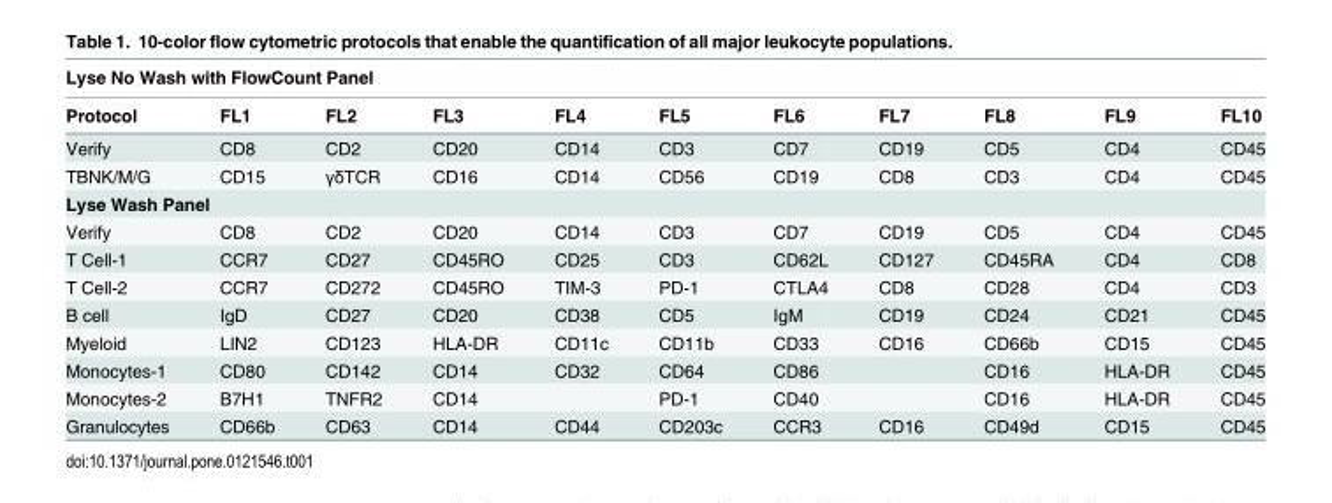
<table><thead><tr><td colspan="11">Lyse No Wash with FlowCount Panel</td></tr><tr><td>Protocol</td><td>FL1</td><td>FL2</td><td>FL3</td><td>FL4</td><td>FL5</td><td>FL6</td><td>FL7</td><td>FL8</td><td>FL9</td><td>FL10</td></tr></thead><tbody><tr><td>Verify</td><td>CD8</td><td>CD2</td><td>CD20</td><td>CD14</td><td>CD3</td><td>CD7</td><td>CD19</td><td>CD5</td><td>CD4</td><td>CD45</td></tr><tr><td>TBNK/M/G</td><td>CD15</td><td>γδTCR</td><td>CD16</td><td>CD14</td><td>CD56</td><td>CD19</td><td>CD8</td><td>CD3</td><td>CD4</td><td>CD45</td></tr><tr><td colspan="11">Lyse Wash Panel</td></tr><tr><td>Verify</td><td>CD8</td><td>CD2</td><td>CD20</td><td>CD14</td><td>CD3</td><td>CD7</td><td>CD19</td><td>CD5</td><td>CD4</td><td>CD45</td></tr><tr><td>T Cell-1</td><td>CCR7</td><td>CD27</td><td>CD45RO</td><td>CD25</td><td>CD3</td><td>CD62L</td><td>CD127</td><td>CD45RA</td><td>CD4</td><td>CD8</td></tr><tr><td>T Cell-2</td><td>CCR7</td><td>CD272</td><td>CD45RO</td><td>TIM-3</td><td>PD-1</td><td>CTLA4</td><td>CD8</td><td>CD28</td><td>CD4</td><td>CD3</td></tr><tr><td>B cell</td><td>IgD</td><td>CD27</td><td>CD20</td><td>CD38</td><td>CD5</td><td>IgM</td><td>CD19</td><td>CD24</td><td>CD21</td><td>CD45</td></tr><tr><td>Myeloid</td><td>LIN2</td><td>CD123</td><td>HLA-DR</td><td>CD11c</td><td>CD11b</td><td>CD33</td><td>CD16</td><td>CD66b</td><td>CD15</td><td>CD45</td></tr><tr><td>Monocytes-1</td><td>CD80</td><td>CD142</td><td>CD14</td><td>CD32</td><td>CD64</td><td>CD86</td><td></td><td>CD16</td><td>HLA-DR</td><td>CD45</td></tr><tr><td>Monocytes-2</td><td>B7H1</td><td>TNFR2</td><td>CD14</td><td></td><td>PD-1</td><td>CD40</td><td></td><td>CD16</td><td>HLA-DR</td><td>CD45</td></tr><tr><td>Granulocytes</td><td>CD66b</td><td>CD63</td><td>CD14</td><td>CD44</td><td>CD203c</td><td>CCR3</td><td>CD16</td><td>CD49d</td><td>CD15</td><td>CD45</td></tr></tbody></table>